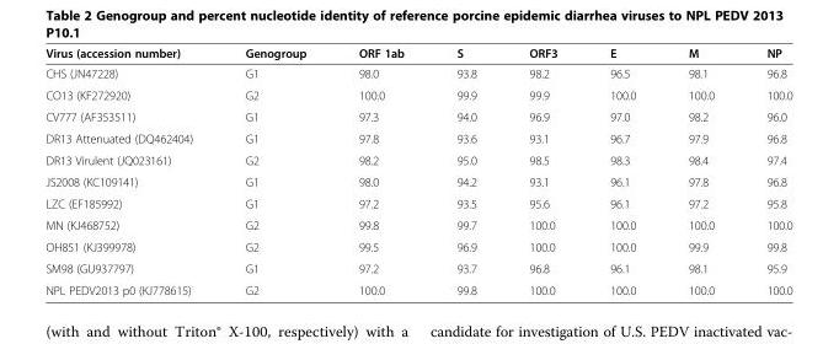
<table><thead><tr><td>Virus (accession number)</td><td>Genogroup</td><td>ORF 1ab</td><td>S</td><td>ORF3</td><td>E</td><td>M</td><td>NP</td></tr></thead><tbody><tr><td>CHS (JN47228)</td><td>G1</td><td>98.0</td><td>93.8</td><td>98.2</td><td>96.5</td><td>98.1</td><td>96.8</td></tr><tr><td>CO13 (KF272920)</td><td>G2</td><td>100.0</td><td>99.9</td><td>99.9</td><td>100.0</td><td>100.0</td><td>100.0</td></tr><tr><td>CV777 (AF353511)</td><td>G1</td><td>97.3</td><td>94.0</td><td>96.9</td><td>97.0</td><td>98.2</td><td>96.0</td></tr><tr><td>DR13 Attenuated (DQ462404)</td><td>G1</td><td>97.8</td><td>93.6</td><td>93.1</td><td>96.7</td><td>97.9</td><td>96.8</td></tr><tr><td>DR13 Virulent (JQ023161)</td><td>G2</td><td>98.2</td><td>95.0</td><td>98.5</td><td>98.3</td><td>98.4</td><td>97.4</td></tr><tr><td>JS2008 (KC109141)</td><td>G1</td><td>98.0</td><td>94.2</td><td>93.1</td><td>96.1</td><td>97.8</td><td>96.8</td></tr><tr><td>LZC (EF185992)</td><td>G1</td><td>97.2</td><td>93.5</td><td>95.6</td><td>96.1</td><td>97.2</td><td>95.8</td></tr><tr><td>MN (KJ468752)</td><td>G2</td><td>99.8</td><td>99.7</td><td>100.0</td><td>100.0</td><td>100.0</td><td>100.0</td></tr><tr><td>OH851 (KJ399978)</td><td>G2</td><td>99.5</td><td>96.9</td><td>100.0</td><td>100.0</td><td>99.9</td><td>99.8</td></tr><tr><td>SM98 (GU937797)</td><td>G1</td><td>97.2</td><td>93.7</td><td>96.8</td><td>96.1</td><td>98.1</td><td>95.9</td></tr><tr><td>NPL PEDV2013 p0 (KJ778615)</td><td>G2</td><td>100.0</td><td>99.8</td><td>100.0</td><td>100.0</td><td>100.0</td><td>100.0</td></tr></tbody></table>